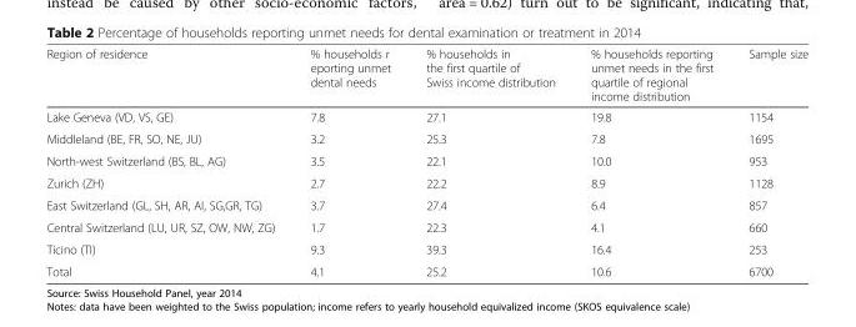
<table><thead><tr><td>Region of residence</td><td>% households r eporting unmet dental needs</td><td>% households in the first quartile of Swiss income distribution</td><td>% households reporting unmet needs in the first quartile of regional income distribution</td><td>Sample size</td></tr></thead><tbody><tr><td>Lake Geneva (VD, VS, GE)</td><td>7.8</td><td>27.1</td><td>19.8</td><td>1154</td></tr><tr><td>Middleland (BE, FR, SO, NE, JU)</td><td>3.2</td><td>25.3</td><td>7.8</td><td>1695</td></tr><tr><td>North-west Switzerland (BS, BL, AG)</td><td>3.5</td><td>22.1</td><td>10.0</td><td>953</td></tr><tr><td>Zurich (ZH)</td><td>2.7</td><td>22.2</td><td>8.9</td><td>1128</td></tr><tr><td>East Switzerland (GL, SH, AR, AI, SG,GR, TG)</td><td>3.7</td><td>27.4</td><td>6.4</td><td>857</td></tr><tr><td>Central Switzerland (LU, UR, SZ, OW, NW, ZG)</td><td>1.7</td><td>22.3</td><td>4.1</td><td>660</td></tr><tr><td>Ticino (TI)</td><td>9.3</td><td>39.3</td><td>16.4</td><td>253</td></tr><tr><td>Total</td><td>4.1</td><td>25.2</td><td>10.6</td><td>6700</td></tr></tbody></table>